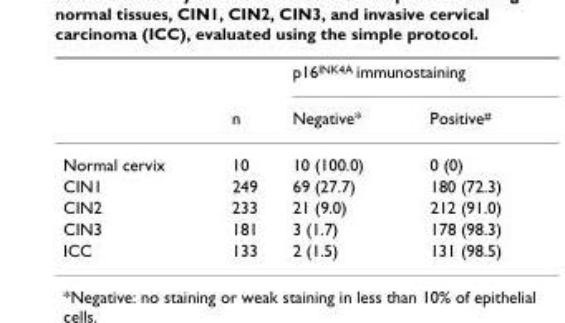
<table><thead><tr><td rowspan="2"></td><td rowspan="2">n</td><td colspan="2">p16<sup>INK4A</sup> immunostaining</td></tr><tr><td>Negative*</td><td>Positive<sup>#</sup></td></tr></thead><tbody><tr><td>Normal cervix</td><td>10</td><td>10 (100.0)</td><td>0 (0)</td></tr><tr><td>CIN1</td><td>249</td><td>69 (27.7)</td><td>180 (72.3)</td></tr><tr><td>CIN2</td><td>233</td><td>21 (9.0)</td><td>212 (91.0)</td></tr><tr><td>CIN3</td><td>181</td><td>3 (1.7)</td><td>178 (98.3)</td></tr><tr><td>ICC</td><td>133</td><td>2 (1.5)</td><td>131 (98.5)</td></tr></tbody></table>